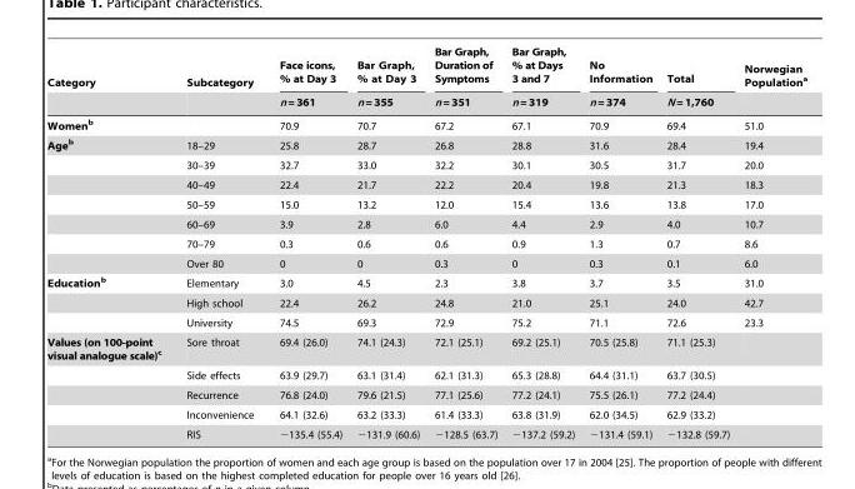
<table><thead><tr><td rowspan="2">Category</td><td rowspan="2">Subcategory</td><td rowspan="2">Face icons, % at Day 3 n = 361</td><td rowspan="2">Bar Graph, % at Day 3 n = 355</td><td rowspan="2">Bar Graph, Duration of Symptoms n = 351</td><td rowspan="2">Bar Graph, % at Days 3 and 7 n = 319</td><td rowspan="2">No Information n = 374</td><td rowspan="2">Total N = 1,760</td><td rowspan="2">Norwegian Population<sup>a</sup></td></tr><tr></tr></thead><tbody><tr><td>Womenb</td><td></td><td>70.9</td><td>70.7</td><td>67.2</td><td>67.1</td><td>70.9</td><td>69.4</td><td>51.0</td></tr><tr><td rowspan="7">Ageb</td><td>18–29</td><td>25.8</td><td>28.7</td><td>26.8</td><td>28.8</td><td>31.6</td><td>28.4</td><td>19.4</td></tr><tr><td>30–39</td><td>32.7</td><td>33.0</td><td>32.2</td><td>30.1</td><td>30.5</td><td>31.7</td><td>20.0</td></tr><tr><td>40–49</td><td>22.4</td><td>21.7</td><td>22.2</td><td>20.4</td><td>19.8</td><td>21.3</td><td>18.3</td></tr><tr><td>50–59</td><td>15.0</td><td>13.2</td><td>12.0</td><td>15.4</td><td>13.6</td><td>13.8</td><td>17.0</td></tr><tr><td>60–69</td><td>3.9</td><td>2.8</td><td>6.0</td><td>4.4</td><td>2.9</td><td>4.0</td><td>10.7</td></tr><tr><td>70–79</td><td>0.3</td><td>0.6</td><td>0.6</td><td>0.9</td><td>1.3</td><td>0.7</td><td>8.6</td></tr><tr><td>Over 80</td><td>0</td><td>0</td><td>0.3</td><td>0</td><td>0.3</td><td>0.1</td><td>6.0</td></tr><tr><td rowspan="3">Educationb</td><td>Elementary</td><td>3.0</td><td>4.5</td><td>2.3</td><td>3.8</td><td>3.7</td><td>3.5</td><td>31.0</td></tr><tr><td>High school</td><td>22.4</td><td>26.2</td><td>24.8</td><td>21.0</td><td>25.1</td><td>24.0</td><td>42.7</td></tr><tr><td>University</td><td>74.5</td><td>69.3</td><td>72.9</td><td>75.2</td><td>71.1</td><td>72.6</td><td>23.3</td></tr><tr><td rowspan="5">Values (on 100-point visual analogue scale)c</td><td>Sore throat</td><td>69.4 (26.0)</td><td>74.1 (24.3)</td><td>72.1 (25.1)</td><td>69.2 (25.1)</td><td>70.5 (25.8)</td><td>71.1 (25.3)</td><td></td></tr><tr><td>Side effects</td><td>63.9 (29.7)</td><td>63.1 (31.4)</td><td>62.1 (31.3)</td><td>65.3 (28.8)</td><td>64.4 (31.1)</td><td>63.7 (30.5)</td><td></td></tr><tr><td>Recurrence</td><td>76.8 (24.0)</td><td>79.6 (21.5)</td><td>77.1 (25.6)</td><td>77.2 (24.1)</td><td>75.5 (26.1)</td><td>77.2 (24.4)</td><td></td></tr><tr><td>Inconvenience</td><td>64.1 (32.6)</td><td>63.2 (33.3)</td><td>61.4 (33.3)</td><td>63.8 (31.9)</td><td>62.0 (34.5)</td><td>62.9 (33.2)</td><td></td></tr><tr><td>RIS</td><td>−135.4 (55.4)</td><td>−131.9 (60.6)</td><td>−128.5 (63.7)</td><td>−137.2 (59.2)</td><td>−131.4 (59.1)</td><td>−132.8 (59.7)</td><td></td></tr></tbody></table>